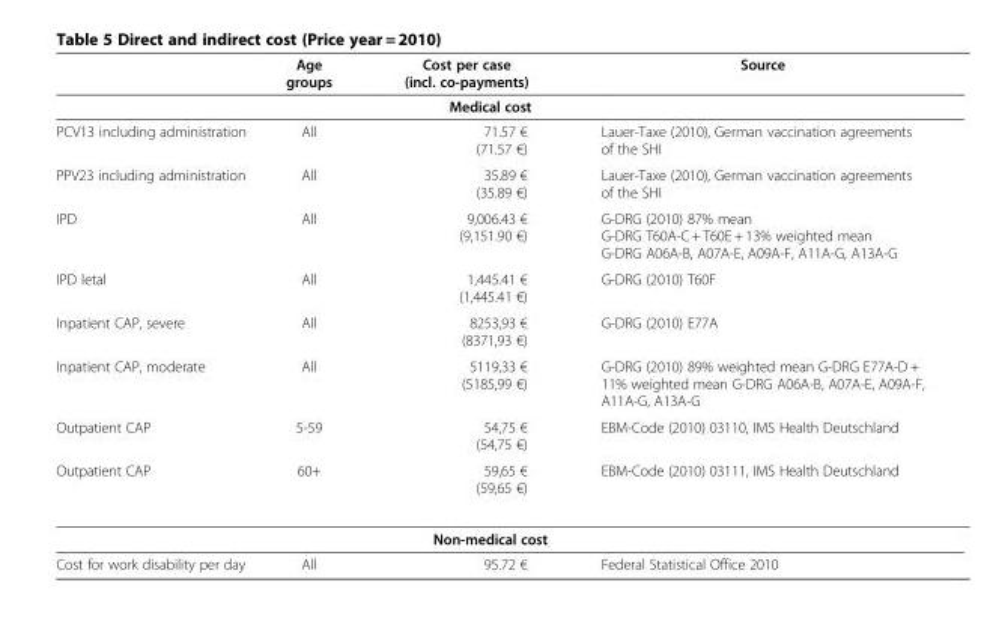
<table><thead><tr><td></td><td>Age groups</td><td>Cost per case (incl. co-payments)</td><td>Source</td></tr></thead><tbody><tr><td colspan="4">Medical cost</td></tr><tr><td>PCV13 including administration</td><td>All</td><td>71.57 € (71.57 €)</td><td>Lauer-Taxe (2010), German vaccination agreements of the SHI</td></tr><tr><td>PPV23 including administration</td><td>All</td><td>35.89 € (35.89 €)</td><td>Lauer-Taxe (2010), German vaccination agreements of the SHI</td></tr><tr><td>IPD</td><td>All</td><td>9,006.43 € (9,151.90 €)</td><td>G-DRG (2010) 87% mean G-DRG T60A-C + T60E + 13% weighted mean G-DRG A06A-B, A07A-E, A09A-F, A11A-G, A13A-G</td></tr><tr><td>IPD letal</td><td>All</td><td>1,445.41 € (1,445.41 €)</td><td>G-DRG (2010) T60F</td></tr><tr><td>Inpatient CAP, severe</td><td>All</td><td>8253,93 € (8371,93 €)</td><td>G-DRG (2010) E77A</td></tr><tr><td>Inpatient CAP, moderate</td><td>All</td><td>5119,33 € (5185,99 €)</td><td>G-DRG (2010) 89% weighted mean G-DRG E77A-D + 11% weighted mean G-DRG A06A-B, A07A-E, A09A-F, A11A-G, A13A-G</td></tr><tr><td>Outpatient CAP</td><td>5-59</td><td>54,75 € (54,75 €)</td><td>EBM-Code (2010) 03110, IMS Health Deutschland</td></tr><tr><td>Outpatient CAP</td><td>60+</td><td>59,65 € (59,65 €)</td><td>EBM-Code (2010) 03111, IMS Health Deutschland</td></tr><tr><td colspan="4">Non-medical cost</td></tr><tr><td>Cost for work disability per day</td><td>All</td><td>95.72 €</td><td>Federal Statistical Office 2010</td></tr></tbody></table>